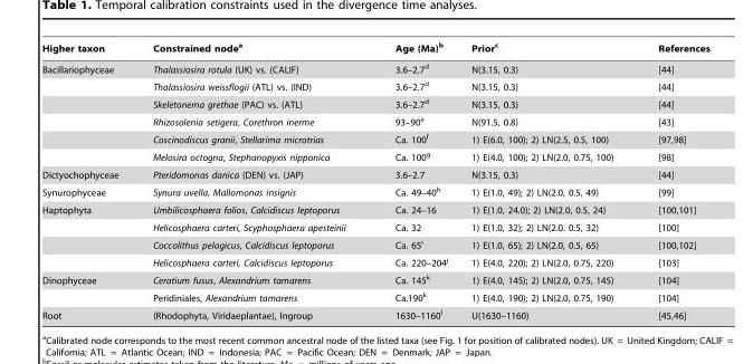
<table><thead><tr><td>Higher taxon</td><td>Constrained node<sup>a</sup></td><td>Age (Ma)<sup>b</sup></td><td>Prior<sup>c</sup></td><td>References</td></tr></thead><tbody><tr><td rowspan="6">Bacillariophyceae</td><td>Thalassiosira rotula (UK) vs. (CALIF)</td><td>3.6–2.7<sup>d</sup></td><td>N(3.15, 0.3)</td><td>[44]</td></tr><tr><td>Thalassiosira weissflogii (ATL) vs. (IND)</td><td>3.6–2.7<sup>d</sup></td><td>N(3.15, 0.3)</td><td>[44]</td></tr><tr><td>Skeletonema grethae (PAC) vs. (ATL)</td><td>3.6–2.7<sup>d</sup></td><td>N(3.15, 0.3)</td><td>[44]</td></tr><tr><td>Rhizosolenia setigera, Corethron inerme</td><td>93–90<sup>e</sup></td><td>N(91.5, 0.8)</td><td>[43]</td></tr><tr><td>Coscinodiscus granii, Stellarima microtrias</td><td>Ca. 100<sup>f</sup></td><td>1) E(6.0, 100); 2) LN(2.5, 0.5, 100)</td><td>[97,98]</td></tr><tr><td>Melosira octogna, Stephanopyxis nipponica</td><td>Ca. 100<sup>g</sup></td><td>1) E(4.0, 100); 2) LN(2.0, 0.75, 100)</td><td>[98]</td></tr><tr><td>Dictyochophyceae</td><td>Pteridomonas danica (DEN) vs. (JAP)</td><td>3.6–2.7</td><td>N(3.15, 0.3)</td><td>[44]</td></tr><tr><td>Synurophyceae</td><td>Synura uvella, Mallomonas insignis</td><td>Ca. 49–40<sup>h</sup></td><td>1) E(1.0, 49); 2) LN(2.0, 0.5, 49)</td><td>[99]</td></tr><tr><td rowspan="4">Haptophyta</td><td>Umbilicosphaera folios, Calcidiscus leptoporus</td><td>Ca. 24–16</td><td>1) E(1.0, 24.0); 2) LN(2.0, 0.5, 24)</td><td>[100,101]</td></tr><tr><td>Helicosphaera carteri, Scyphosphaera apesteinii</td><td>Ca. 32</td><td>1) E(1.0, 32); 2) LN(2.0. 0.5, 32)</td><td>[100]</td></tr><tr><td>Coccolithus pelagicus, Calcidiscus leptoporus</td><td>Ca. 65<sup>i</sup></td><td>1) E(1.0, 65); 2) LN(2.0, 0.5, 65)</td><td>[100,102]</td></tr><tr><td>Helicosphaera carteri, Calcidiscus leptoporus</td><td>Ca. 220–204<sup>j</sup></td><td>1) E(4.0, 220); 2) LN(2.0, 0.75, 220)</td><td>[103]</td></tr><tr><td rowspan="2">Dinophyceae</td><td>Ceratium fusus, Alexandrium tamarens</td><td>Ca. 145<sup>k</sup></td><td>1) E(4.0, 145); 2) LN(2.0, 0.75, 145)</td><td>[104]</td></tr><tr><td>Peridiniales, Alexandrium tamarens</td><td>Ca.190<sup>k</sup></td><td>1) E(4.0, 190); 2) LN(2.0, 0.75, 190)</td><td>[104]</td></tr><tr><td>Root</td><td>(Rhodophyta, Viridaeplantae), Ingroup</td><td>1630–1160<sup>l</sup></td><td>U(1630–1160)</td><td>[45,46]</td></tr></tbody></table>